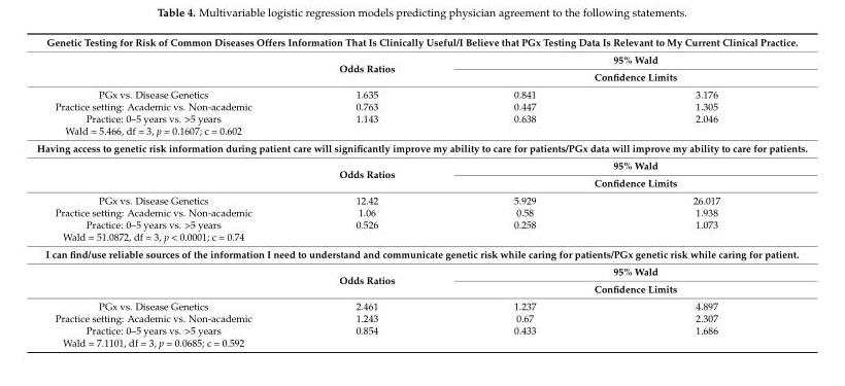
<table><tbody><tr><td colspan="4">Genetic Testing for Risk of Common Diseases Offers Information That Is Clinically Useful/I Believe that PGx Testing Data Is Relevant to My Current Clinical Practice.</td></tr><tr><td rowspan="2"></td><td rowspan="2">Odds Ratios</td><td colspan="2">95% Wald</td></tr><tr><td colspan="2">Confidence Limits</td></tr><tr><td>PGx vs. Disease Genetics</td><td>1.635</td><td>0.841</td><td>3.176</td></tr><tr><td>Practice setting: Academic vs. Non-academic</td><td>0.763</td><td>0.447</td><td>1.305</td></tr><tr><td>Practice: 0–5 years vs. &gt;5 years</td><td>1.143</td><td>0.638</td><td>2.046</td></tr><tr><td colspan="4">Wald = 5.466, df = 3, p = 0.1607; c = 0.602</td></tr><tr><td colspan="4">Having access to genetic risk information during patient care will significantly improve my ability to care for patients/PGx data will improve my ability to care for patients.</td></tr><tr><td rowspan="2"></td><td rowspan="2">Odds Ratios</td><td colspan="2">95% Wald</td></tr><tr><td colspan="2">Confidence Limits</td></tr><tr><td>PGx vs. Disease Genetics</td><td>12.42</td><td>5.929</td><td>26.017</td></tr><tr><td>Practice setting: Academic vs. Non-academic</td><td>1.06</td><td>0.58</td><td>1.938</td></tr><tr><td>Practice: 0–5 years vs. &gt;5 years</td><td>0.526</td><td>0.258</td><td>1.073</td></tr><tr><td colspan="4">Wald = 51.0872, df = 3, p &lt; 0.0001; c = 0.74</td></tr><tr><td colspan="4">I can find/use reliable sources of the information I need to understand and communicate genetic risk while caring for patients/PGx genetic risk while caring for patient.</td></tr><tr><td rowspan="2"></td><td rowspan="2">Odds Ratios</td><td colspan="2">95% Wald</td></tr><tr><td colspan="2">Confidence Limits</td></tr><tr><td>PGx vs. Disease Genetics</td><td>2.461</td><td>1.237</td><td>4.897</td></tr><tr><td>Practice setting: Academic vs. Non-academic</td><td>1.243</td><td>0.67</td><td>2.307</td></tr><tr><td>Practice: 0–5 years vs. &gt;5 years</td><td>0.854</td><td>0.433</td><td>1.686</td></tr><tr><td>Wald = 7.1101, df = 3, p = 0.0685; c = 0.592</td><td colspan="2"></td><td></td></tr></tbody></table>